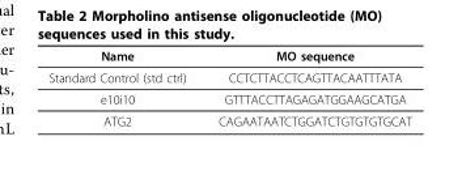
<table><thead><tr><td>Name</td><td>MO sequence</td></tr></thead><tbody><tr><td>Standard Control (std ctrl)</td><td>CCTCTTACCTCAGTTACAATTTATA</td></tr><tr><td>e10i10</td><td>GTTTACCTTAGAGATGGAAGCATGA</td></tr><tr><td>ATG2</td><td>CAGAATAATCTGGATCTGTGTGTGCAT</td></tr></tbody></table>